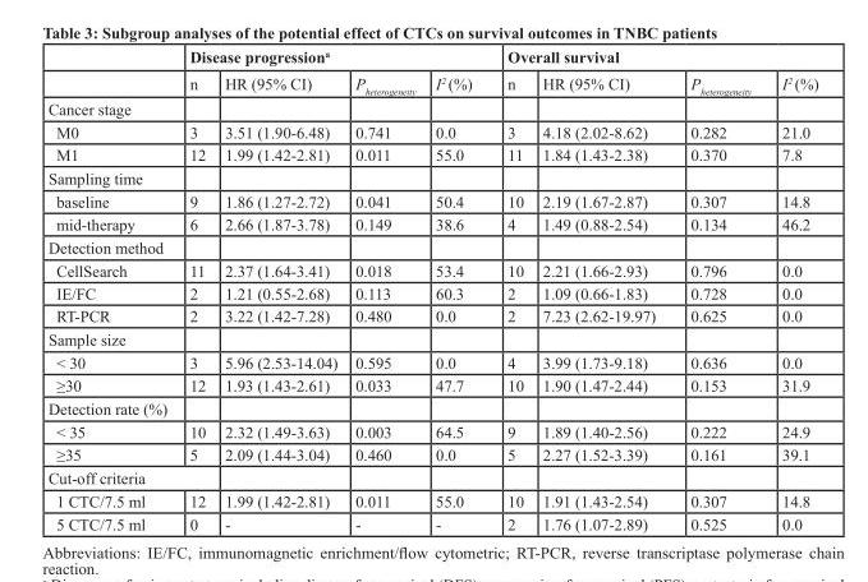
<table><thead><tr><td rowspan="2"></td><td colspan="4">Disease progression<sup>a</sup></td><td colspan="4">Overall survival</td></tr><tr><td>n</td><td>HR (95% CI)</td><td>P<sub>heterogeneity</sub></td><td>I<sup>2</sup> (%)</td><td>n</td><td>HR (95% CI)</td><td>P<sub>heterogeneity</sub></td><td>I<sup>2</sup> (%)</td></tr></thead><tbody><tr><td colspan="9">Cancer stage</td></tr><tr><td>M0</td><td>3</td><td>3.51 (1.90-6.48)</td><td>0.741</td><td>0.0</td><td>3</td><td>4.18 (2.02-8.62)</td><td>0.282</td><td>21.0</td></tr><tr><td>M1</td><td>12</td><td>1.99 (1.42-2.81)</td><td>0.011</td><td>55.0</td><td>11</td><td>1.84 (1.43-2.38)</td><td>0.370</td><td>7.8</td></tr><tr><td colspan="9">Sampling time</td></tr><tr><td>baseline</td><td>9</td><td>1.86 (1.27-2.72)</td><td>0.041</td><td>50.4</td><td>10</td><td>2.19 (1.67-2.87)</td><td>0.307</td><td>14.8</td></tr><tr><td>mid-therapy</td><td>6</td><td>2.66 (1.87-3.78)</td><td>0.149</td><td>38.6</td><td>4</td><td>1.49 (0.88-2.54)</td><td>0.134</td><td>46.2</td></tr><tr><td colspan="9">Detection method</td></tr><tr><td>CellSearch</td><td>11</td><td>2.37 (1.64-3.41)</td><td>0.018</td><td>53.4</td><td>10</td><td>2.21 (1.66-2.93)</td><td>0.796</td><td>0.0</td></tr><tr><td>IE/FC</td><td>2</td><td>1.21 (0.55-2.68)</td><td>0.113</td><td>60.3</td><td>2</td><td>1.09 (0.66-1.83)</td><td>0.728</td><td>0.0</td></tr><tr><td>RT-PCR</td><td>2</td><td>3.22 (1.42-7.28)</td><td>0.480</td><td>0.0</td><td>2</td><td>7.23 (2.62-19.97)</td><td>0.625</td><td>0.0</td></tr><tr><td colspan="9">Sample size</td></tr><tr><td>&lt; 30</td><td>3</td><td>5.96 (2.53-14.04)</td><td>0.595</td><td>0.0</td><td>4</td><td>3.99 (1.73-9.18)</td><td>0.636</td><td>0.0</td></tr><tr><td>≥30</td><td>12</td><td>1.93 (1.43-2.61)</td><td>0.033</td><td>47.7</td><td>10</td><td>1.90 (1.47-2.44)</td><td>0.153</td><td>31.9</td></tr><tr><td colspan="9">Detection rate (%)</td></tr><tr><td>&lt; 35</td><td>10</td><td>2.32 (1.49-3.63)</td><td>0.003</td><td>64.5</td><td>9</td><td>1.89 (1.40-2.56)</td><td>0.222</td><td>24.9</td></tr><tr><td>≥35</td><td>5</td><td>2.09 (1.44-3.04)</td><td>0.460</td><td>0.0</td><td>5</td><td>2.27 (1.52-3.39)</td><td>0.161</td><td>39.1</td></tr><tr><td colspan="9">Cut-off criteria</td></tr><tr><td>1 CTC/7.5 ml</td><td>12</td><td>1.99 (1.42-2.81)</td><td>0.011</td><td>55.0</td><td>10</td><td>1.91 (1.43-2.54)</td><td>0.307</td><td>14.8</td></tr><tr><td>5 CTC/7.5 ml</td><td>0</td><td>-</td><td>-</td><td>-</td><td>2</td><td>1.76 (1.07-2.89)</td><td>0.525</td><td>0.0</td></tr></tbody></table>